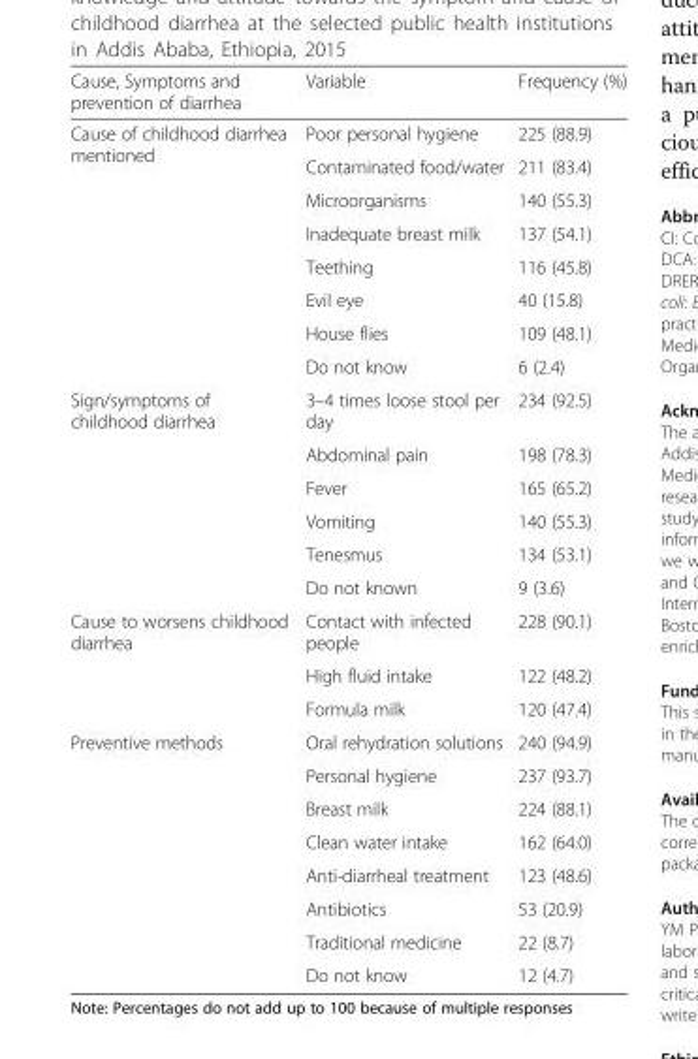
<table><thead><tr><td>Cause, Symptoms and prevention of diarrhea</td><td>Variable</td><td>Frequency (%)</td></tr></thead><tbody><tr><td rowspan="8">Cause of childhood diarrhea mentioned</td><td>Poor personal hygiene</td><td>225 (88.9)</td></tr><tr><td>Contaminated food/water</td><td>211 (83.4)</td></tr><tr><td>Microorganisms</td><td>140 (55.3)</td></tr><tr><td>Inadequate breast milk</td><td>137 (54.1)</td></tr><tr><td>Teething</td><td>116 (45.8)</td></tr><tr><td>Evil eye</td><td>40 (15.8)</td></tr><tr><td>House flies</td><td>109 (48.1)</td></tr><tr><td>Do not know</td><td>6 (2.4)</td></tr><tr><td rowspan="6">Sign/symptoms of childhood diarrhea</td><td>3–4 times loose stool per day</td><td>234 (92.5)</td></tr><tr><td>Abdominal pain</td><td>198 (78.3)</td></tr><tr><td>Fever</td><td>165 (65.2)</td></tr><tr><td>Vomiting</td><td>140 (55.3)</td></tr><tr><td>Tenesmus</td><td>134 (53.1)</td></tr><tr><td>Do not known</td><td>9 (3.6)</td></tr><tr><td rowspan="3">Cause to worsens childhood diarrhea</td><td>Contact with infected people</td><td>228 (90.1)</td></tr><tr><td>High fluid intake</td><td>122 (48.2)</td></tr><tr><td>Formula milk</td><td>120 (47.4)</td></tr><tr><td rowspan="8">Preventive methods</td><td>Oral rehydration solutions</td><td>240 (94.9)</td></tr><tr><td>Personal hygiene</td><td>237 (93.7)</td></tr><tr><td>Breast milk</td><td>224 (88.1)</td></tr><tr><td>Clean water intake</td><td>162 (64.0)</td></tr><tr><td>Anti-diarrheal treatment</td><td>123 (48.6)</td></tr><tr><td>Antibiotics</td><td>53 (20.9)</td></tr><tr><td>Traditional medicine</td><td>22 (8.7)</td></tr><tr><td>Do not know</td><td>12 (4.7)</td></tr></tbody></table>